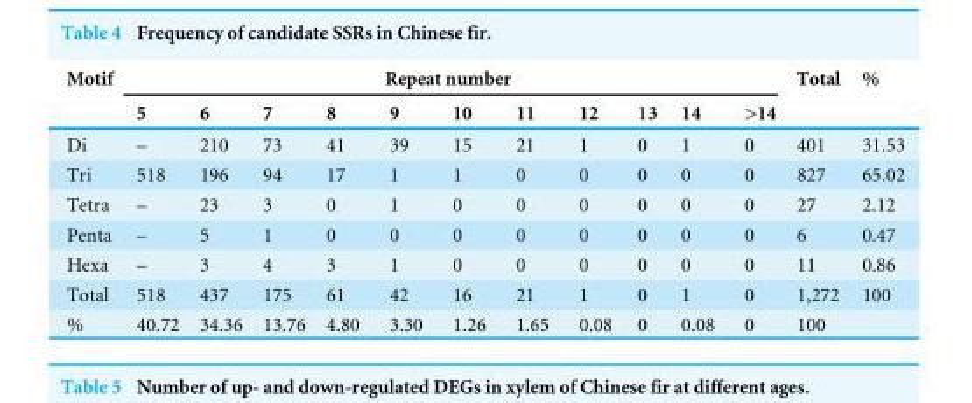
<table><thead><tr><td rowspan="2">Motif</td><td colspan="11">Repeat number</td><td rowspan="2">Total</td><td rowspan="2">%</td></tr><tr><td>5</td><td>6</td><td>7</td><td>8</td><td>9</td><td>10</td><td>11</td><td>12</td><td>13</td><td>14</td><td>&gt;14</td></tr></thead><tbody><tr><td>Di</td><td>–</td><td>210</td><td>73</td><td>41</td><td>39</td><td>15</td><td>21</td><td>1</td><td>0</td><td>1</td><td>0</td><td>401</td><td>31.53</td></tr><tr><td>Tri</td><td>518</td><td>196</td><td>94</td><td>17</td><td>1</td><td>1</td><td>0</td><td>0</td><td>0</td><td>0</td><td>0</td><td>827</td><td>65.02</td></tr><tr><td>Tetra</td><td>–</td><td>23</td><td>3</td><td>0</td><td>1</td><td>0</td><td>0</td><td>0</td><td>0</td><td>0</td><td>0</td><td>27</td><td>2.12</td></tr><tr><td>Penta</td><td>–</td><td>5</td><td>1</td><td>0</td><td>0</td><td>0</td><td>0</td><td>0</td><td>0</td><td>0</td><td>0</td><td>6</td><td>0.47</td></tr><tr><td>Hexa</td><td>–</td><td>3</td><td>4</td><td>3</td><td>1</td><td>0</td><td>0</td><td>0</td><td>0</td><td>0</td><td>0</td><td>11</td><td>0.86</td></tr><tr><td>Total</td><td>518</td><td>437</td><td>175</td><td>61</td><td>42</td><td>16</td><td>21</td><td>1</td><td>0</td><td>1</td><td>0</td><td>1,272</td><td>100</td></tr><tr><td>%</td><td>40.72</td><td>34.36</td><td>13.76</td><td>4.80</td><td>3.30</td><td>1.26</td><td>1.65</td><td>0.08</td><td>0</td><td>0.08</td><td>0</td><td>100</td><td></td></tr></tbody></table>